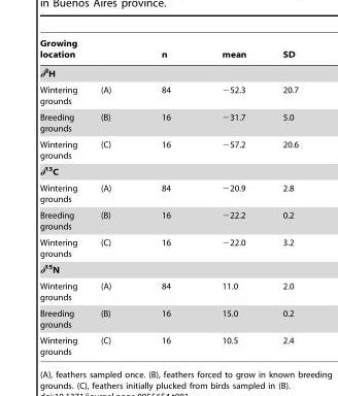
<table><thead><tr><td>Growing location</td><td></td><td>n</td><td>mean</td><td>SD</td></tr></thead><tbody><tr><td colspan="5">δ<sup>2</sup>H</td></tr><tr><td>Wintering grounds</td><td>(A)</td><td>84</td><td>−52.3</td><td>20.7</td></tr><tr><td>Breeding grounds</td><td>(B)</td><td>16</td><td>−31.7</td><td>5.0</td></tr><tr><td>Wintering grounds</td><td>(C)</td><td>16</td><td>−57.2</td><td>20.6</td></tr><tr><td colspan="5">δ<sup>13</sup>C</td></tr><tr><td>Wintering grounds</td><td>(A)</td><td>84</td><td>−20.9</td><td>2.8</td></tr><tr><td>Breeding grounds</td><td>(B)</td><td>16</td><td>−22.2</td><td>0.2</td></tr><tr><td>Wintering grounds</td><td>(C)</td><td>16</td><td>−22.0</td><td>3.2</td></tr><tr><td colspan="5">δ<sup>15</sup>N</td></tr><tr><td>Wintering grounds</td><td>(A)</td><td>84</td><td>11.0</td><td>2.0</td></tr><tr><td>Breeding grounds</td><td>(B)</td><td>16</td><td>15.0</td><td>0.2</td></tr><tr><td>Wintering grounds</td><td>(C)</td><td>16</td><td>10.5</td><td>2.4</td></tr></tbody></table>